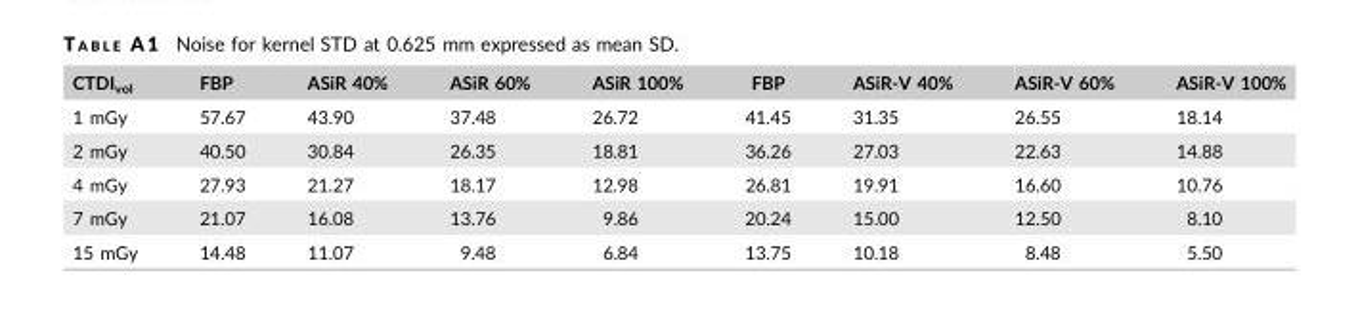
<table><thead><tr><td>CTDI<sub>vol</sub></td><td>FBP</td><td>ASiR 40%</td><td>ASiR 60%</td><td>ASiR 100%</td><td>FBP</td><td>ASiR-V 40%</td><td>ASiR-V 60%</td><td>ASiR-V 100%</td></tr></thead><tbody><tr><td>1 mGy</td><td>57.67</td><td>43.90</td><td>37.48</td><td>26.72</td><td>41.45</td><td>31.35</td><td>26.55</td><td>18.14</td></tr><tr><td>2 mGy</td><td>40.50</td><td>30.84</td><td>26.35</td><td>18.81</td><td>36.26</td><td>27.03</td><td>22.63</td><td>14.88</td></tr><tr><td>4 mGy</td><td>27.93</td><td>21.27</td><td>18.17</td><td>12.98</td><td>26.81</td><td>19.91</td><td>16.60</td><td>10.76</td></tr><tr><td>7 mGy</td><td>21.07</td><td>16.08</td><td>13.76</td><td>9.86</td><td>20.24</td><td>15.00</td><td>12.50</td><td>8.10</td></tr><tr><td>15 mGy</td><td>14.48</td><td>11.07</td><td>9.48</td><td>6.84</td><td>13.75</td><td>10.18</td><td>8.48</td><td>5.50</td></tr></tbody></table>